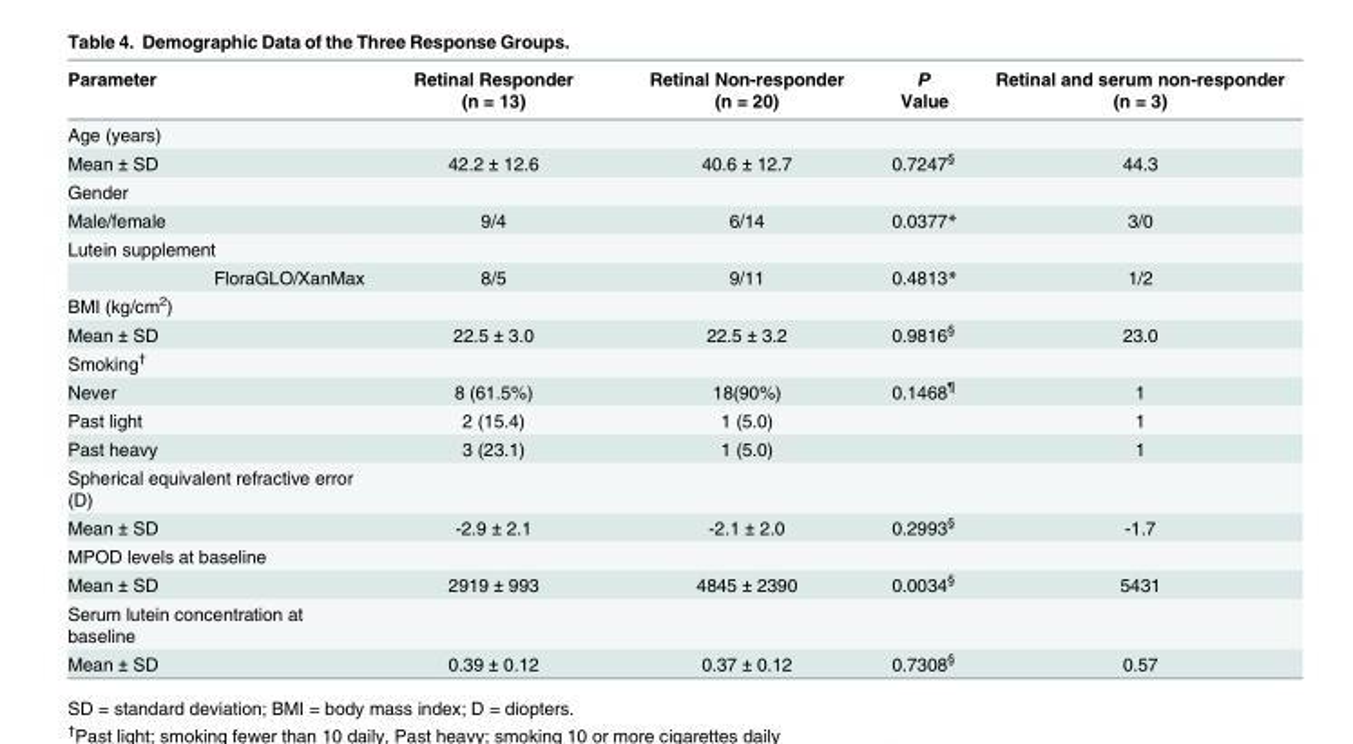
<table><thead><tr><td>Parameter</td><td>Retinal Responder (n = 13)</td><td>Retinal Non-responder (n = 20)</td><td>P Value</td><td>Retinal and serum non-responder (n = 3)</td></tr></thead><tbody><tr><td colspan="5">Age (years)</td></tr><tr><td>Mean ± SD</td><td>42.2 ± 12.6</td><td>40.6 ± 12.7</td><td>0.7247<sup>§</sup></td><td>44.3</td></tr><tr><td colspan="5">Gender</td></tr><tr><td>Male/female</td><td>9/4</td><td>6/14</td><td>0.0377*</td><td>3/0</td></tr><tr><td colspan="5">Lutein supplement</td></tr><tr><td>FloraGLO/XanMax</td><td>8/5</td><td>9/11</td><td>0.4813*</td><td>1/2</td></tr><tr><td colspan="5">BMI (kg/cm<sup>2</sup>)</td></tr><tr><td>Mean ± SD</td><td>22.5 ± 3.0</td><td>22.5 ± 3.2</td><td>0.9816<sup>§</sup></td><td>23.0</td></tr><tr><td colspan="5">Smoking<sup>†</sup></td></tr><tr><td>Never</td><td>8 (61.5%)</td><td>18(90%)</td><td>0.1468<sup>¶</sup></td><td>1</td></tr><tr><td>Past light</td><td>2 (15.4)</td><td>1 (5.0)</td><td></td><td>1</td></tr><tr><td>Past heavy</td><td>3 (23.1)</td><td>1 (5.0)</td><td></td><td>1</td></tr><tr><td colspan="5">Spherical equivalent refractive error (D)</td></tr><tr><td>Mean ± SD</td><td>-2.9 ± 2.1</td><td>-2.1 ± 2.0</td><td>0.2993<sup>§</sup></td><td>-1.7</td></tr><tr><td colspan="5">MPOD levels at baseline</td></tr><tr><td>Mean ± SD</td><td>2919 ± 993</td><td>4845 ± 2390</td><td>0.0034<sup>§</sup></td><td>5431</td></tr><tr><td colspan="5">Serum lutein concentration at baseline</td></tr><tr><td>Mean ± SD</td><td>0.39 ± 0.12</td><td>0.37 ± 0.12</td><td>0.7308<sup>§</sup></td><td>0.57</td></tr></tbody></table>